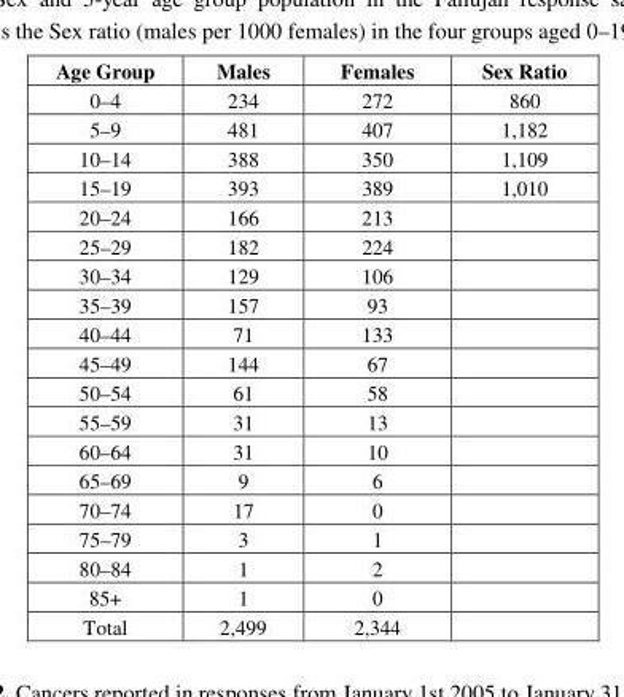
<table><thead><tr><td>Age Group</td><td>Males</td><td>Females</td><td>Sex Ratio</td></tr></thead><tbody><tr><td>0–4</td><td>234</td><td>272</td><td>860</td></tr><tr><td>5–9</td><td>481</td><td>407</td><td>1,182</td></tr><tr><td>10–14</td><td>388</td><td>350</td><td>1,109</td></tr><tr><td>15–19</td><td>393</td><td>389</td><td>1,010</td></tr><tr><td>20–24</td><td>166</td><td>213</td><td></td></tr><tr><td>25–29</td><td>182</td><td>224</td><td></td></tr><tr><td>30–34</td><td>129</td><td>106</td><td></td></tr><tr><td>35–39</td><td>157</td><td>93</td><td></td></tr><tr><td>40–44</td><td>71</td><td>133</td><td></td></tr><tr><td>45–49</td><td>144</td><td>67</td><td></td></tr><tr><td>50–54</td><td>61</td><td>58</td><td></td></tr><tr><td>55–59</td><td>31</td><td>13</td><td></td></tr><tr><td>60–64</td><td>31</td><td>10</td><td></td></tr><tr><td>65–69</td><td>9</td><td>6</td><td></td></tr><tr><td>70–74</td><td>17</td><td>0</td><td></td></tr><tr><td>75–79</td><td>3</td><td>1</td><td></td></tr><tr><td>80–84</td><td>1</td><td>2</td><td></td></tr><tr><td>85+</td><td>1</td><td>0</td><td></td></tr><tr><td>Total</td><td>2,499</td><td>2,344</td><td></td></tr></tbody></table>